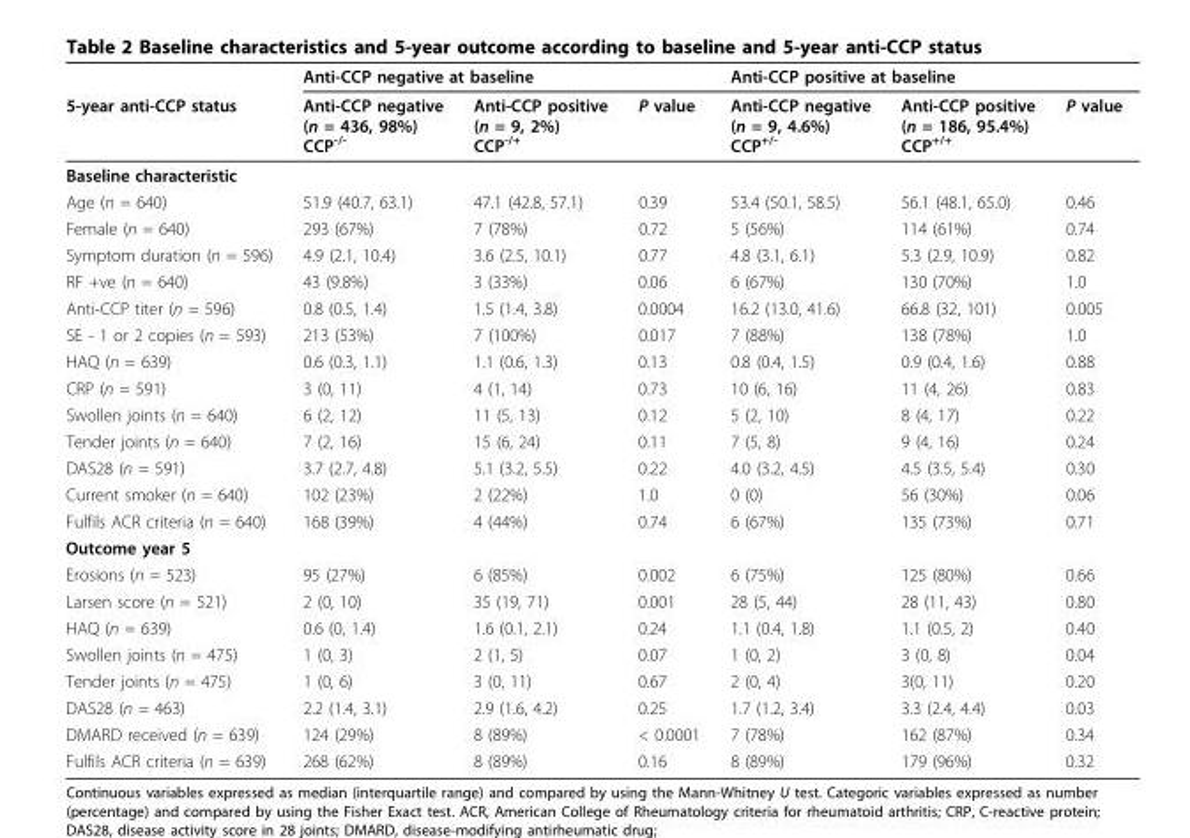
<table><thead><tr><td rowspan="2">5-year anti-CCP status</td><td colspan="3">Anti-CCP negative at baseline</td><td colspan="3">Anti-CCP positive at baseline</td></tr><tr><td>Anti-CCP negative (n = 436, 98%) CCP<sup>-/-</sup></td><td>Anti-CCP positive (n = 9, 2%) CCP<sup>-/+</sup></td><td>P value</td><td>Anti-CCP negative (n = 9, 4.6%) CCP<sup>+/-</sup></td><td>Anti-CCP positive (n = 186, 95.4%) CCP<sup>+/+</sup></td><td>P value</td></tr></thead><tbody><tr><td colspan="7">Baseline characteristic</td></tr><tr><td>Age (n = 640)</td><td>51.9 (40.7, 63.1)</td><td>47.1 (42.8, 57.1)</td><td>0.39</td><td>53.4 (50.1, 58.5)</td><td>56.1 (48.1, 65.0)</td><td>0.46</td></tr><tr><td>Female (n = 640)</td><td>293 (67%)</td><td>7 (78%)</td><td>0.72</td><td>5 (56%)</td><td>114 (61%)</td><td>0.74</td></tr><tr><td>Symptom duration (n = 596)</td><td>4.9 (2.1, 10.4)</td><td>3.6 (2.5, 10.1)</td><td>0.77</td><td>4.8 (3.1, 6.1)</td><td>5.3 (2.9, 10.9)</td><td>0.82</td></tr><tr><td>RF +ve (n = 640)</td><td>43 (9.8%)</td><td>3 (33%)</td><td>0.06</td><td>6 (67%)</td><td>130 (70%)</td><td>1.0</td></tr><tr><td>Anti-CCP titer (n = 596)</td><td>0.8 (0.5, 1.4)</td><td>1.5 (1.4, 3.8)</td><td>0.0004</td><td>16.2 (13.0, 41.6)</td><td>66.8 (32, 101)</td><td>0.005</td></tr><tr><td>SE - 1 or 2 copies (n = 593)</td><td>213 (53%)</td><td>7 (100%)</td><td>0.017</td><td>7 (88%)</td><td>138 (78%)</td><td>1.0</td></tr><tr><td>HAQ (n = 639)</td><td>0.6 (0.3, 1.1)</td><td>1.1 (0.6, 1.3)</td><td>0.13</td><td>0.8 (0.4, 1.5)</td><td>0.9 (0.4, 1.6)</td><td>0.88</td></tr><tr><td>CRP (n = 591)</td><td>3 (0, 11)</td><td>4 (1, 14)</td><td>0.73</td><td>10 (6, 16)</td><td>11 (4, 26)</td><td>0.83</td></tr><tr><td>Swollen joints (n = 640)</td><td>6 (2, 12)</td><td>11 (5, 13)</td><td>0.12</td><td>5 (2, 10)</td><td>8 (4, 17)</td><td>0.22</td></tr><tr><td>Tender joints (n = 640)</td><td>7 (2, 16)</td><td>15 (6, 24)</td><td>0.11</td><td>7 (5, 8)</td><td>9 (4, 16)</td><td>0.24</td></tr><tr><td>DAS28 (n = 591)</td><td>3.7 (2.7, 4.8)</td><td>5.1 (3.2, 5.5)</td><td>0.22</td><td>4.0 (3.2, 4.5)</td><td>4.5 (3.5, 5.4)</td><td>0.30</td></tr><tr><td>Current smoker (n = 640)</td><td>102 (23%)</td><td>2 (22%)</td><td>1.0</td><td>0 (0)</td><td>56 (30%)</td><td>0.06</td></tr><tr><td>Fulfils ACR criteria (n = 640)</td><td>168 (39%)</td><td>4 (44%)</td><td>0.74</td><td>6 (67%)</td><td>135 (73%)</td><td>0.71</td></tr><tr><td colspan="7">Outcome year 5</td></tr><tr><td>Erosions (n = 523)</td><td>95 (27%)</td><td>6 (85%)</td><td>0.002</td><td>6 (75%)</td><td>125 (80%)</td><td>0.66</td></tr><tr><td>Larsen score (n = 521)</td><td>2 (0, 10)</td><td>35 (19, 71)</td><td>0.001</td><td>28 (5, 44)</td><td>28 (11, 43)</td><td>0.80</td></tr><tr><td>HAQ (n = 639)</td><td>0.6 (0, 1.4)</td><td>1.6 (0.1, 2.1)</td><td>0.24</td><td>1.1 (0.4, 1.8)</td><td>1.1 (0.5, 2)</td><td>0.40</td></tr><tr><td>Swollen joints (n = 475)</td><td>1 (0, 3)</td><td>2 (1, 5)</td><td>0.07</td><td>1 (0, 2)</td><td>3 (0, 8)</td><td>0.04</td></tr><tr><td>Tender joints (n = 475)</td><td>1 (0, 6)</td><td>3 (0, 11)</td><td>0.67</td><td>2 (0, 4)</td><td>3(0, 11)</td><td>0.20</td></tr><tr><td>DAS28 (n = 463)</td><td>2.2 (1.4, 3.1)</td><td>2.9 (1.6, 4.2)</td><td>0.25</td><td>1.7 (1.2, 3.4)</td><td>3.3 (2.4, 4.4)</td><td>0.03</td></tr><tr><td>DMARD received (n = 639)</td><td>124 (29%)</td><td>8 (89%)</td><td>&lt; 0.0001</td><td>7 (78%)</td><td>162 (87%)</td><td>0.34</td></tr><tr><td>Fulfils ACR criteria (n = 639)</td><td>268 (62%)</td><td>8 (89%)</td><td>0.16</td><td>8 (89%)</td><td>179 (96%)</td><td>0.32</td></tr></tbody></table>